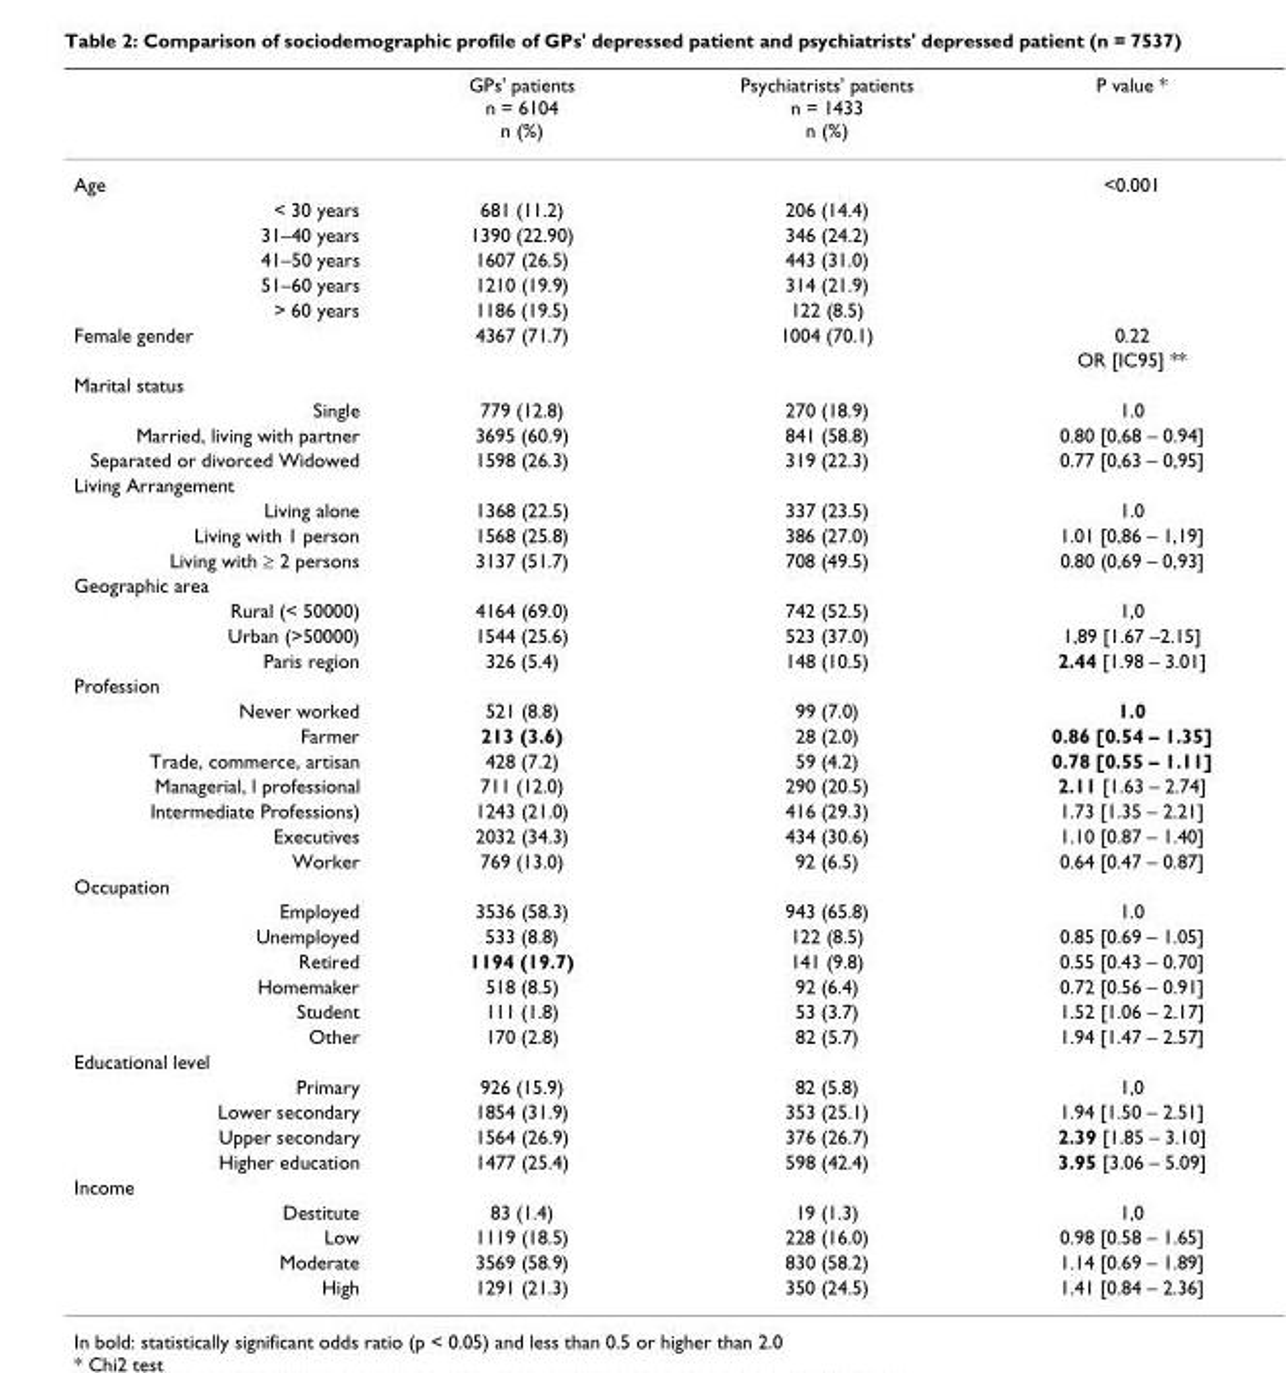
<table><thead><tr><td></td><td>GPs&#x27; patients n = 6104 n (%)</td><td>Psychiatrists&#x27; patients n = 1433 n (%)</td><td>P value *</td></tr></thead><tbody><tr><td>Age</td><td></td><td></td><td>&lt;0.001</td></tr><tr><td>&lt; 30 years</td><td>681 (11.2)</td><td>206 (14.4)</td><td></td></tr><tr><td>31–40 years</td><td>1390 (22.90)</td><td>346 (24.2)</td><td></td></tr><tr><td>41–50 years</td><td>1607 (26.5)</td><td>443 (31.0)</td><td></td></tr><tr><td>51–60 years</td><td>1210 (19.9)</td><td>314 (21.9)</td><td></td></tr><tr><td>&gt; 60 years</td><td>1186 (19.5)</td><td>122 (8.5)</td><td></td></tr><tr><td rowspan="2">Female gender</td><td>4367 (71.7)</td><td>1004 (70.1)</td><td>0.22</td></tr><tr><td></td><td></td><td>OR [IC95] **</td></tr><tr><td colspan="4">Marital status</td></tr><tr><td>Single</td><td>779 (12.8)</td><td>270 (18.9)</td><td>1.0</td></tr><tr><td>Married, living with partner</td><td>3695 (60.9)</td><td>841 (58.8)</td><td>0.80 [0,68 – 0.94]</td></tr><tr><td>Separated or divorced Widowed</td><td>1598 (26.3)</td><td>319 (22.3)</td><td>0.77 [0,63 – 0,95]</td></tr><tr><td colspan="4">Living Arrangement</td></tr><tr><td>Living alone</td><td>1368 (22.5)</td><td>337 (23.5)</td><td>1.0</td></tr><tr><td>Living with 1 person</td><td>1568 (25.8)</td><td>386 (27.0)</td><td>1.01 [0,86 – 1,19]</td></tr><tr><td>Living with ≥ 2 persons</td><td>3137 (51.7)</td><td>708 (49.5)</td><td>0.80 (0,69 – 0,93]</td></tr><tr><td colspan="4">Geographic area</td></tr><tr><td>Rural (&lt; 50000)</td><td>4164 (69.0)</td><td>742 (52.5)</td><td>1,0</td></tr><tr><td>Urban (&gt;50000)</td><td>1544 (25.6)</td><td>523 (37.0)</td><td>1,89 [1.67 –2.15]</td></tr><tr><td>Paris region</td><td>326 (5.4)</td><td>148 (10.5)</td><td>2.44 [1.98 – 3.01]</td></tr><tr><td colspan="4">Profession</td></tr><tr><td>Never worked</td><td>521 (8.8)</td><td>99 (7.0)</td><td>1.0</td></tr><tr><td>Farmer</td><td>213 (3.6)</td><td>28 (2.0)</td><td>0.86 [0.54 – 1.35]</td></tr><tr><td>Trade, commerce, artisan</td><td>428 (7.2)</td><td>59 (4.2)</td><td>0.78 [0.55 – 1.11]</td></tr><tr><td>Managerial, l professional</td><td>711 (12.0)</td><td>290 (20.5)</td><td>2.11 [1.63 – 2.74]</td></tr><tr><td>Intermediate Professions)</td><td>1243 (21.0)</td><td>416 (29.3)</td><td>1.73 [1.35 – 2.21]</td></tr><tr><td>Executives</td><td>2032 (34.3)</td><td>434 (30.6)</td><td>1.10 [0.87 – 1.40]</td></tr><tr><td>Worker</td><td>769 (13.0)</td><td>92 (6.5)</td><td>0.64 [0.47 – 0.87]</td></tr><tr><td colspan="4">Occupation</td></tr><tr><td>Employed</td><td>3536 (58.3)</td><td>943 (65.8)</td><td>1.0</td></tr><tr><td>Unemployed</td><td>533 (8.8)</td><td>122 (8.5)</td><td>0.85 [0.69 – 1.05]</td></tr><tr><td>Retired</td><td>1194 (19.7)</td><td>141 (9.8)</td><td>0.55 [0.43 – 0.70]</td></tr><tr><td>Homemaker</td><td>518 (8.5)</td><td>92 (6.4)</td><td>0.72 [0.56 – 0.91]</td></tr><tr><td>Student</td><td>111 (1.8)</td><td>53 (3.7)</td><td>1.52 [1.06 – 2.17]</td></tr><tr><td>Other</td><td>170 (2.8)</td><td>82 (5.7)</td><td>1.94 [1.47 – 2.57]</td></tr><tr><td colspan="4">Educational level</td></tr><tr><td>Primary</td><td>926 (15.9)</td><td>82 (5.8)</td><td>1,0</td></tr><tr><td>Lower secondary</td><td>1854 (31.9)</td><td>353 (25.1)</td><td>1.94 [1.50 – 2.51]</td></tr><tr><td>Upper secondary</td><td>1564 (26.9)</td><td>376 (26.7)</td><td>2.39 [1.85 – 3.10]</td></tr><tr><td>Higher education</td><td>1477 (25.4)</td><td>598 (42.4)</td><td>3.95 [3.06 – 5.09]</td></tr><tr><td colspan="4">Income</td></tr><tr><td>Destitute</td><td>83 (1.4)</td><td>19 (1.3)</td><td>1,0</td></tr><tr><td>Low</td><td>1119 (18.5)</td><td>228 (16.0)</td><td>0.98 [0.58 – 1.65]</td></tr><tr><td>Moderate</td><td>3569 (58.9)</td><td>830 (58.2)</td><td>1.14 [0.69 – 1.89]</td></tr><tr><td>High</td><td>1291 (21.3)</td><td>350 (24.5)</td><td>1.41 [0.84 – 2.36]</td></tr></tbody></table>